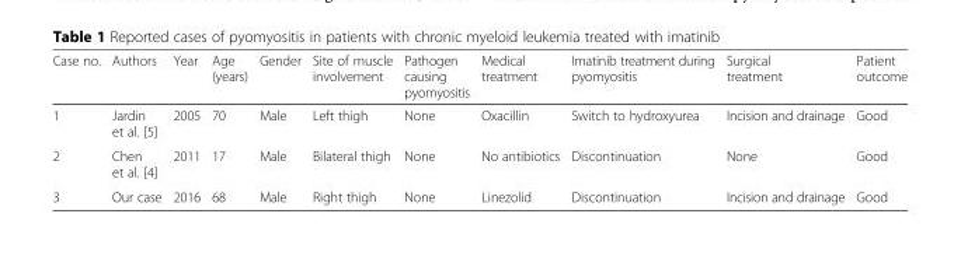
<table><thead><tr><td>Case no.</td><td>Authors</td><td>Year</td><td>Age (years)</td><td>Gender</td><td>Site of muscle involvement</td><td>Pathogen causing pyomyositis</td><td>Medical treatment</td><td>Imatinib treatment during pyomyositis</td><td>Surgical treatment</td><td>Patient outcome</td></tr></thead><tbody><tr><td>1</td><td>Jardin et al. [5]</td><td>2005</td><td>70</td><td>Male</td><td>Left thigh</td><td>None</td><td>Oxacillin</td><td>Switch to hydroxyurea</td><td>Incision and drainage</td><td>Good</td></tr><tr><td>2</td><td>Chen et al. [4]</td><td>2011</td><td>17</td><td>Male</td><td>Bilateral thigh</td><td>None</td><td>No antibiotics</td><td>Discontinuation</td><td>None</td><td>Good</td></tr><tr><td>3</td><td>Our case</td><td>2016</td><td>68</td><td>Male</td><td>Right thigh</td><td>None</td><td>Linezolid</td><td>Discontinuation</td><td>Incision and drainage</td><td>Good</td></tr></tbody></table>